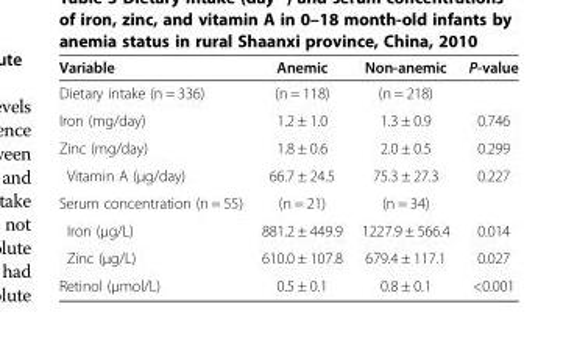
<table><thead><tr><td>Variable</td><td>Anemic</td><td>Non-anemic</td><td>P-value</td></tr></thead><tbody><tr><td>Dietary intake (n = 336)</td><td>(n = 118)</td><td>(n = 218)</td><td></td></tr><tr><td>Iron (mg/day)</td><td>1.2 ± 1.0</td><td>1.3 ± 0.9</td><td>0.746</td></tr><tr><td>Zinc (mg/day)</td><td>1.8 ± 0.6</td><td>2.0 ± 0.5</td><td>0.299</td></tr><tr><td>Vitamin A (μg/day)</td><td>66.7 ± 24.5</td><td>75.3 ± 27.3</td><td>0.227</td></tr><tr><td>Serum concentration (n = 55)</td><td>(n = 21)</td><td>(n = 34)</td><td></td></tr><tr><td>Iron (μg/L)</td><td>881.2 ± 449.9</td><td>1227.9 ± 566.4</td><td>0.014</td></tr><tr><td>Zinc (μg/L)</td><td>610.0 ± 107.8</td><td>679.4 ± 117.1</td><td>0.027</td></tr><tr><td>Retinol (μmol/L)</td><td>0.5 ± 0.1</td><td>0.8 ± 0.1</td><td>&lt;0.001</td></tr></tbody></table>